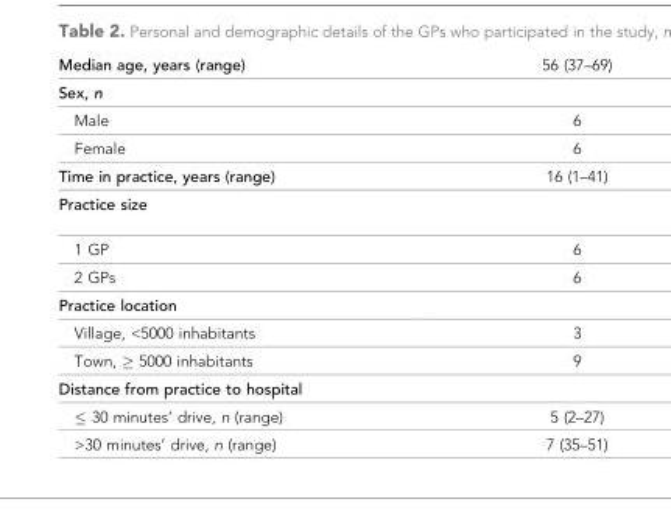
<table><tbody><tr><td>Median age, years (range)</td><td>56 (37–69)</td></tr><tr><td colspan="2">Sex, n</td></tr><tr><td>Male</td><td>6</td></tr><tr><td>Female</td><td>6</td></tr><tr><td>Time in practice, years (range)</td><td>16 (1–41)</td></tr><tr><td colspan="2">Practice size</td></tr><tr><td>1 GP</td><td>6</td></tr><tr><td>2 GPs</td><td>6</td></tr><tr><td colspan="2">Practice location</td></tr><tr><td>Village, &lt;5000 inhabitants</td><td>3</td></tr><tr><td>Town, ≥ 5000 inhabitants</td><td>9</td></tr><tr><td colspan="2">Distance from practice to hospital</td></tr><tr><td>≤ 30 minutes’ drive, n (range)</td><td>5 (2–27)</td></tr><tr><td>&gt;30 minutes’ drive, n (range)</td><td>7 (35–51)</td></tr></tbody></table>